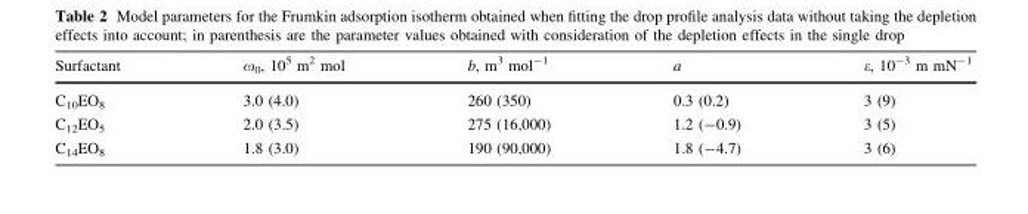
<table><thead><tr><td>Surfactant</td><td>ω<sub>0</sub>, 10<sup>5</sup> m<sup>2</sup> mol</td><td>b, m<sup>3</sup> mol<sup>-1</sup></td><td>a</td><td>ε, 10<sup>-3</sup> m mN<sup>-1</sup></td></tr></thead><tbody><tr><td>C<sub>10</sub>EO<sub>8</sub></td><td>3.0 (4.0)</td><td>260 (350)</td><td>0.3 (0.2)</td><td>3 (9)</td></tr><tr><td>C<sub>12</sub>EO<sub>5</sub></td><td>2.0 (3.5)</td><td>275 (16,000)</td><td>1.2 (-0.9)</td><td>3 (5)</td></tr><tr><td>C<sub>14</sub>EO<sub>8</sub></td><td>1.8 (3.0)</td><td>190 (90,000)</td><td>1.8 (-4.7)</td><td>3 (6)</td></tr></tbody></table>